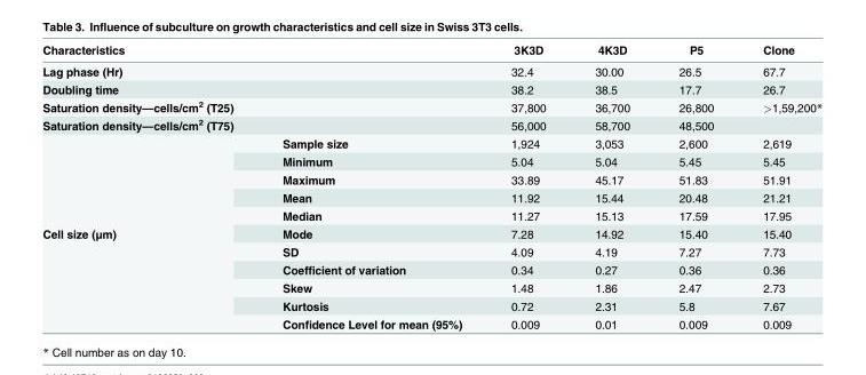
<table><thead><tr><td colspan="2">Characteristics</td><td>3K3D</td><td>4K3D</td><td>P5</td><td>Clone</td></tr></thead><tbody><tr><td colspan="2">Lag phase (Hr)</td><td>32.4</td><td>30.00</td><td>26.5</td><td>67.7</td></tr><tr><td colspan="2">Doubling time</td><td>38.2</td><td>38.5</td><td>17.7</td><td>26.7</td></tr><tr><td colspan="2">Saturation density—cells/cm<sup>2</sup> (T25)</td><td>37,800</td><td>36,700</td><td>26,800</td><td>&gt;1,59,200*</td></tr><tr><td colspan="2">Saturation density—cells/cm<sup>2</sup> (T75)</td><td>56,000</td><td>58,700</td><td>48,500</td><td></td></tr><tr><td rowspan="11">Cell size (μm)</td><td>Sample size</td><td>1,924</td><td>3,053</td><td>2,600</td><td>2,619</td></tr><tr><td>Minimum</td><td>5.04</td><td>5.04</td><td>5.45</td><td>5.45</td></tr><tr><td>Maximum</td><td>33.89</td><td>45.17</td><td>51.83</td><td>51.91</td></tr><tr><td>Mean</td><td>11.92</td><td>15.44</td><td>20.48</td><td>21.21</td></tr><tr><td>Median</td><td>11.27</td><td>15.13</td><td>17.59</td><td>17.95</td></tr><tr><td>Mode</td><td>7.28</td><td>14.92</td><td>15.40</td><td>15.40</td></tr><tr><td>SD</td><td>4.09</td><td>4.19</td><td>7.27</td><td>7.73</td></tr><tr><td>Coefficient of variation</td><td>0.34</td><td>0.27</td><td>0.36</td><td>0.36</td></tr><tr><td>Skew</td><td>1.48</td><td>1.86</td><td>2.47</td><td>2.73</td></tr><tr><td>Kurtosis</td><td>0.72</td><td>2.31</td><td>5.8</td><td>7.67</td></tr><tr><td>Confidence Level for mean (95%)</td><td>0.009</td><td>0.01</td><td>0.009</td><td>0.009</td></tr></tbody></table>